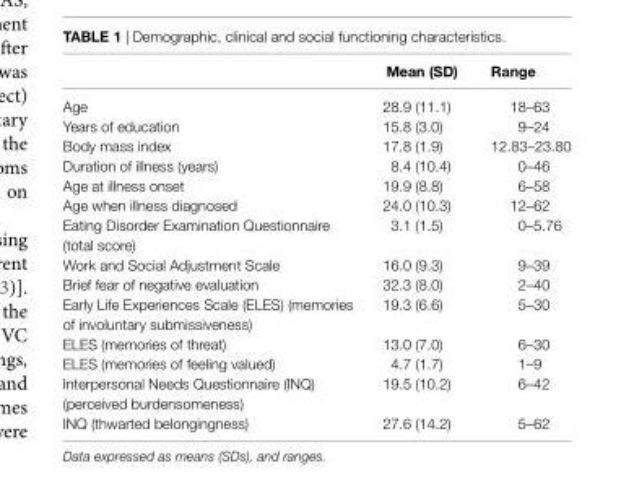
<table><thead><tr><td></td><td>Mean (sD)</td><td>range</td></tr></thead><tbody><tr><td>Age</td><td>28.9 (11.1)</td><td>18–63</td></tr><tr><td>Years of education</td><td>15.8 (3.0)</td><td>9–24</td></tr><tr><td>Body mass index</td><td>17.8 (1.9)</td><td>12.83–23.80</td></tr><tr><td>Duration of illness (years)</td><td>8.4 (10.4)</td><td>0–46</td></tr><tr><td>Age at illness onset</td><td>19.9 (8.8)</td><td>6–58</td></tr><tr><td>Age when illness diagnosed</td><td>24.0 (10.3)</td><td>12–62</td></tr><tr><td>Eating Disorder Examination Questionnaire (total score)</td><td>3.1 (1.5)</td><td>0–5.76</td></tr><tr><td>Work and Social Adjustment Scale</td><td>16.0 (9.3)</td><td>9–39</td></tr><tr><td>Brief fear of negative evaluation</td><td>32.3 (8.0)</td><td>2–40</td></tr><tr><td>Early Life Experiences Scale (ELES) (memories of involuntary submissiveness)</td><td>19.3 (6.6)</td><td>5–30</td></tr><tr><td>ELES (memories of threat)</td><td>13.0 (7.0)</td><td>6–30</td></tr><tr><td>ELES (memories of feeling valued)</td><td>4.7 (1.7)</td><td>1–9</td></tr><tr><td>Interpersonal Needs Questionnaire (INQ) (perceived burdensomeness)</td><td>19.5 (10.2)</td><td>6–42</td></tr><tr><td>INQ (thwarted belongingness)</td><td>27.6 (14.2)</td><td>5–62</td></tr></tbody></table>